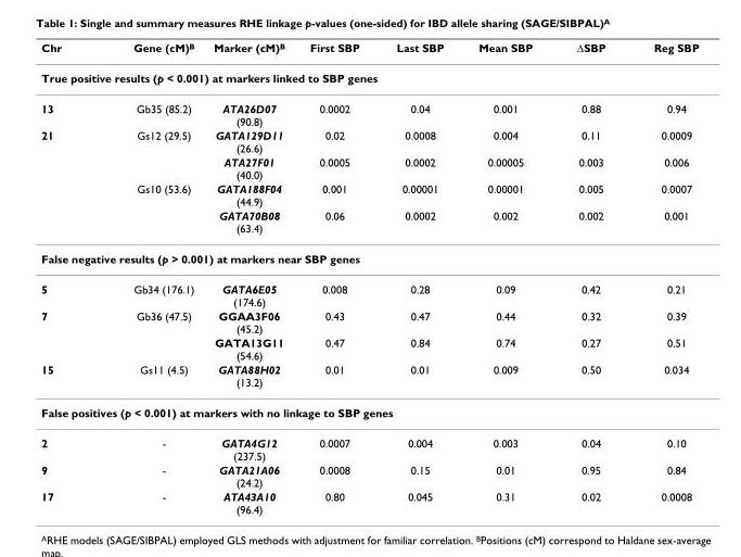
<table><thead><tr><td>Chr</td><td>Gene (cM)B</td><td>Marker (cM)B</td><td>First SBP</td><td>Last SBP</td><td>Mean SBP</td><td>∆SBP</td><td>Reg SBP</td></tr></thead><tbody><tr><td colspan="8">True positive results (p &lt; 0.001) at markers linked to SBP genes</td></tr><tr><td>13</td><td>Gb35 (85.2)</td><td>ATA26D07 (90.8)</td><td>0.0002</td><td>0.04</td><td>0.001</td><td>0.88</td><td>0.94</td></tr><tr><td rowspan="4">21</td><td>Gs12 (29.5)</td><td>GATA129D11 (26.6)</td><td>0.02</td><td>0.0008</td><td>0.004</td><td>0.11</td><td>0.0009</td></tr><tr><td></td><td>ATA27F01 (40.0)</td><td>0.0005</td><td>0.0002</td><td>0.00005</td><td>0.003</td><td>0.006</td></tr><tr><td>Gs10 (53.6)</td><td>GATA188F04 (44.9)</td><td>0.001</td><td>0.00001</td><td>0.00001</td><td>0.005</td><td>0.0007</td></tr><tr><td></td><td>GATA70B08 (63.4)</td><td>0.06</td><td>0.0002</td><td>0.002</td><td>0.002</td><td>0.001</td></tr><tr><td colspan="8">False negative results (p &gt; 0.001) at markers near SBP genes</td></tr><tr><td>5</td><td>Gb34 (176.1)</td><td>GATA6E05 (174.6)</td><td>0.008</td><td>0.28</td><td>0.09</td><td>0.42</td><td>0.21</td></tr><tr><td rowspan="2">7</td><td>Gb36 (47.5)</td><td>GGAA3F06 (45.2)</td><td>0.43</td><td>0.47</td><td>0.44</td><td>0.32</td><td>0.39</td></tr><tr><td></td><td>GATA13G11 (54.6)</td><td>0.47</td><td>0.84</td><td>0.74</td><td>0.27</td><td>0.51</td></tr><tr><td>15</td><td>Gs11 (4.5)</td><td>GATA88H02 (13.2)</td><td>0.01</td><td>0.01</td><td>0.009</td><td>0.50</td><td>0.034</td></tr><tr><td colspan="8">False positives (p &lt; 0.001) at markers with no linkage to SBP genes</td></tr><tr><td>2</td><td>-</td><td>GATA4G12 (237.5)</td><td>0.0007</td><td>0.004</td><td>0.003</td><td>0.04</td><td>0.10</td></tr><tr><td>9</td><td>-</td><td>GATA21A06 (24.2)</td><td>0.0008</td><td>0.15</td><td>0.01</td><td>0.95</td><td>0.84</td></tr><tr><td>17</td><td>-</td><td>ATA43A10 (96.4)</td><td>0.80</td><td>0.045</td><td>0.31</td><td>0.02</td><td>0.0008</td></tr></tbody></table>